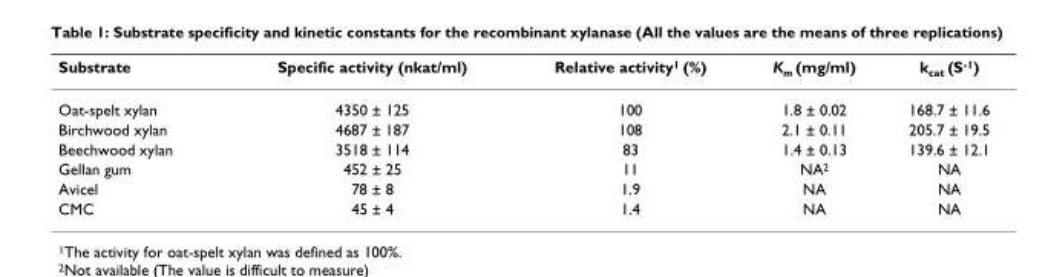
<table><thead><tr><td>Substrate</td><td>Specific activity (nkat/ml)</td><td>Relative activity<sup>1</sup> (%)</td><td>K<sub>m</sub> (mg/ml)</td><td>k<sub>cat</sub> (S<sup>-1</sup>)</td></tr></thead><tbody><tr><td>Oat-spelt xylan</td><td>4350 ± 125</td><td>100</td><td>1.8 ± 0.02</td><td>168.7 ± 11.6</td></tr><tr><td>Birchwood xylan</td><td>4687 ± 187</td><td>108</td><td>2.1 ± 0.11</td><td>205.7 ± 19.5</td></tr><tr><td>Beechwood xylan</td><td>3518 ± 114</td><td>83</td><td>1.4 ± 0.13</td><td>139.6 ± 12.1</td></tr><tr><td>Gellan gum</td><td>452 ± 25</td><td>11</td><td>NA<sup>2</sup></td><td>NA</td></tr><tr><td>Avicel</td><td>78 ± 8</td><td>1.9</td><td>NA</td><td>NA</td></tr><tr><td>CMC</td><td>45 ± 4</td><td>1.4</td><td>NA</td><td>NA</td></tr></tbody></table>